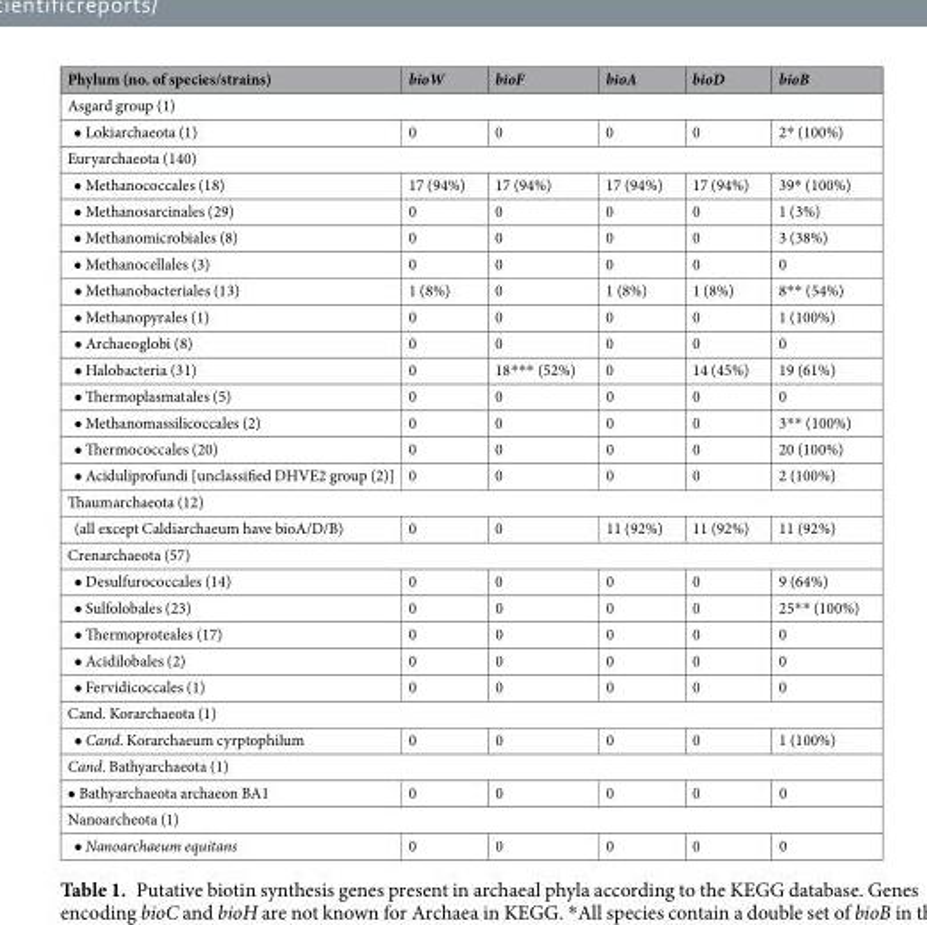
<table><thead><tr><td>Phylum (no. of species/strains)</td><td>bioW</td><td>bioF</td><td>bioA</td><td>bioD</td><td>bioB</td></tr></thead><tbody><tr><td colspan="6">Asgard group (1)</td></tr><tr><td>• Lokiarchaeota (1)</td><td>0</td><td>0</td><td>0</td><td>0</td><td>2* (100%)</td></tr><tr><td colspan="6">Euryarchaeota (140)</td></tr><tr><td>• Methanococcales (18)</td><td>17 (94%)</td><td>17 (94%)</td><td>17 (94%)</td><td>17 (94%)</td><td>39* (100%)</td></tr><tr><td>• Methanosarcinales (29)</td><td>0</td><td>0</td><td>0</td><td>0</td><td>1 (3%)</td></tr><tr><td>• Methanomicrobiales (8)</td><td>0</td><td>0</td><td>0</td><td>0</td><td>3 (38%)</td></tr><tr><td>• Methanocellales (3)</td><td>0</td><td>0</td><td>0</td><td>0</td><td>0</td></tr><tr><td>• Methanobacteriales (13)</td><td>1 (8%)</td><td>0</td><td>1 (8%)</td><td>1 (8%)</td><td>8** (54%)</td></tr><tr><td>• Methanopyrales (1)</td><td>0</td><td>0</td><td>0</td><td>0</td><td>1 (100%)</td></tr><tr><td>• Archaeoglobi (8)</td><td>0</td><td>0</td><td>0</td><td>0</td><td>0</td></tr><tr><td>• Halobacteria (31)</td><td>0</td><td>18*** (52%)</td><td>0</td><td>14 (45%)</td><td>19 (61%)</td></tr><tr><td>• Thermoplasmatales (5)</td><td>0</td><td>0</td><td>0</td><td>0</td><td>0</td></tr><tr><td>• Methanomassilicoccales (2)</td><td>0</td><td>0</td><td>0</td><td>0</td><td>3** (100%)</td></tr><tr><td>• Thermococcales (20)</td><td>0</td><td>0</td><td>0</td><td>0</td><td>20 (100%)</td></tr><tr><td>• Aciduliprofundi [unclassified DHVE2 group (2)]</td><td>0</td><td>0</td><td>0</td><td>0</td><td>2 (100%)</td></tr><tr><td colspan="6">Thaumarchaeota (12)</td></tr><tr><td>(all except Caldiarchaeum have bioA/D/B)</td><td>0</td><td>0</td><td>11 (92%)</td><td>11 (92%)</td><td>11 (92%)</td></tr><tr><td colspan="6">Crenarchaeota (57)</td></tr><tr><td>• Desulfurococcales (14)</td><td>0</td><td>0</td><td>0</td><td>0</td><td>9 (64%)</td></tr><tr><td>• Sulfolobales (23)</td><td>0</td><td>0</td><td>0</td><td>0</td><td>25** (100%)</td></tr><tr><td>• Thermoproteales (17)</td><td>0</td><td>0</td><td>0</td><td>0</td><td>0</td></tr><tr><td>• Acidilobales (2)</td><td>0</td><td>0</td><td>0</td><td>0</td><td>0</td></tr><tr><td>• Fervidicoccales (1)</td><td>0</td><td>0</td><td>0</td><td>0</td><td>0</td></tr><tr><td colspan="6">Cand. Korarchaeota (1)</td></tr><tr><td>• Cand. Korarchaeum cyrptophilum</td><td>0</td><td>0</td><td>0</td><td>0</td><td>1 (100%)</td></tr><tr><td colspan="6">Cand. Bathyarchaeota (1)</td></tr><tr><td>• Bathyarchaeota archaeon BA1</td><td>0</td><td>0</td><td>0</td><td>0</td><td>0</td></tr><tr><td colspan="6">Nanoarcheota (1)</td></tr><tr><td>• Nanoarchaeum equitans</td><td>0</td><td>0</td><td>0</td><td>0</td><td>0</td></tr></tbody></table>